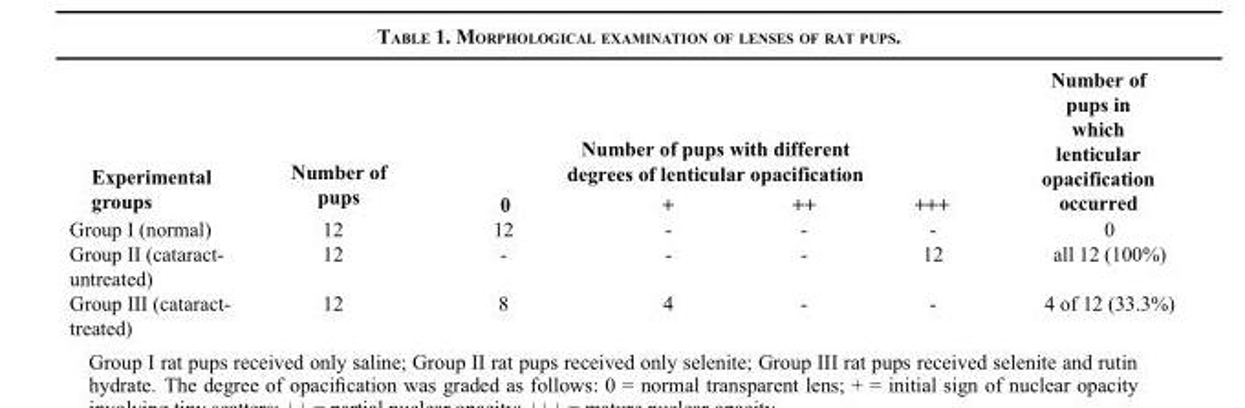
<table><thead><tr><td rowspan="2">Experimental groups</td><td rowspan="2">Number of pups</td><td colspan="4">Number of pups with different degrees of lenticular opacification</td><td rowspan="2">Number of pups in which lenticular opacification occurred</td></tr><tr><td>0</td><td>+</td><td>++</td><td>+++</td></tr></thead><tbody><tr><td>Group I (normal)</td><td>12</td><td>12</td><td>-</td><td>-</td><td>-</td><td>0</td></tr><tr><td>Group II (cataract- untreated)</td><td>12</td><td>-</td><td>-</td><td>-</td><td>12</td><td>all 12 (100%)</td></tr><tr><td>Group III (cataract- treated)</td><td>12</td><td>8</td><td>4</td><td>-</td><td>-</td><td>4 of 12 (33.3%)</td></tr></tbody></table>